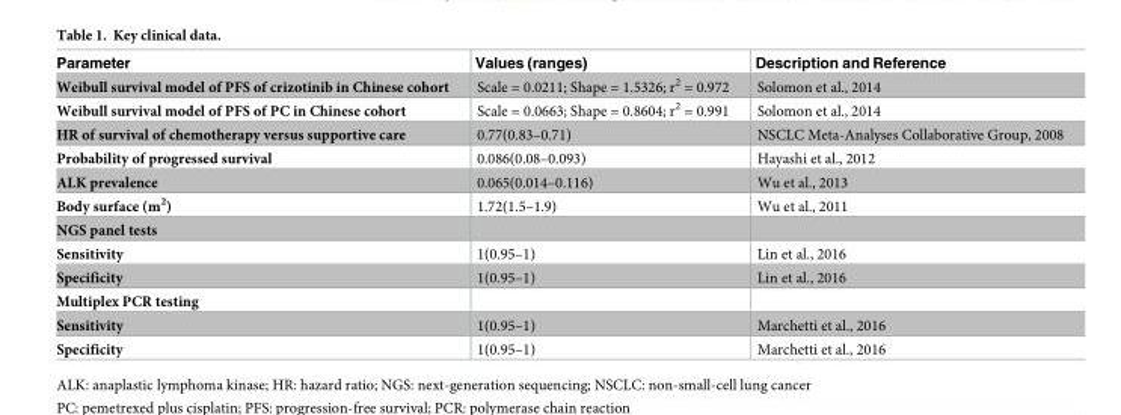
<table><thead><tr><td>Parameter</td><td>Values (ranges)</td><td>Description and Reference</td></tr></thead><tbody><tr><td>Weibull survival model of PFS of crizotinib in Chinese cohort</td><td>Scale = 0.0211; Shape = 1.5326; r<sup>2</sup> = 0.972</td><td>Solomon et al., 2014</td></tr><tr><td>Weibull survival model of PFS of PC in Chinese cohort</td><td>Scale = 0.0663; Shape = 0.8604; r<sup>2</sup> = 0.991</td><td>Solomon et al., 2014</td></tr><tr><td>HR of survival of chemotherapy versus supportive care</td><td>0.77(0.83–0.71)</td><td>NSCLC Meta-Analyses Collaborative Group, 2008</td></tr><tr><td>Probability of progressed survival</td><td>0.086(0.08–0.093)</td><td>Hayashi et al., 2012</td></tr><tr><td>ALK prevalence</td><td>0.065(0.014–0.116)</td><td>Wu et al., 2013</td></tr><tr><td>Body surface (m<sup>2</sup>)</td><td>1.72(1.5–1.9)</td><td>Wu et al., 2011</td></tr><tr><td colspan="3">NGS panel tests</td></tr><tr><td>Sensitivity</td><td>1(0.95–1)</td><td>Lin et al., 2016</td></tr><tr><td>Specificity</td><td>1(0.95–1)</td><td>Lin et al., 2016</td></tr><tr><td colspan="3">Multiplex PCR testing</td></tr><tr><td>Sensitivity</td><td>1(0.95–1)</td><td>Marchetti et al., 2016</td></tr><tr><td>Specificity</td><td>1(0.95–1)</td><td>Marchetti et al., 2016</td></tr></tbody></table>